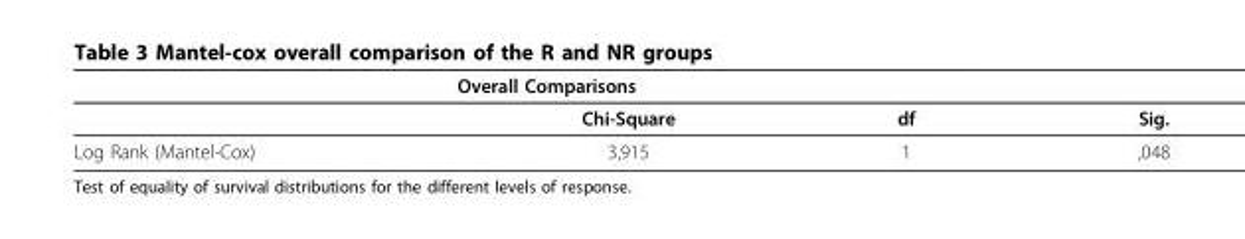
<table><thead><tr><td colspan="3">Overall Comparisons</td><td rowspan="2">Sig.</td></tr><tr><td></td><td>Chi-Square</td><td>df</td></tr></thead><tbody><tr><td>Log Rank (Mantel-Cox)</td><td>3,915</td><td>1</td><td>,048</td></tr></tbody></table>